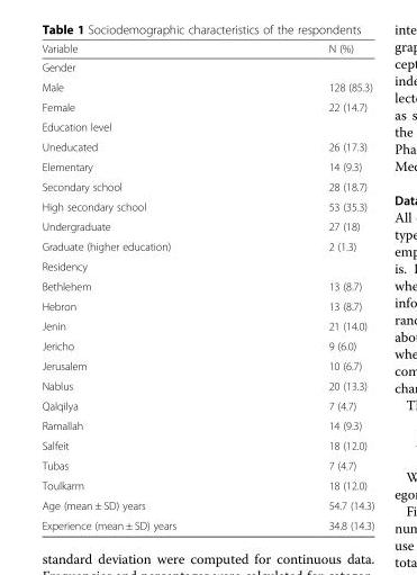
<table><thead><tr><td>Variable</td><td>N (%)</td></tr></thead><tbody><tr><td colspan="2">Gender</td></tr><tr><td>Male</td><td>128 (85.3)</td></tr><tr><td>Female</td><td>22 (14.7)</td></tr><tr><td colspan="2">Education level</td></tr><tr><td>Uneducated</td><td>26 (17.3)</td></tr><tr><td>Elementary</td><td>14 (9.3)</td></tr><tr><td>Secondary school</td><td>28 (18.7)</td></tr><tr><td>High secondary school</td><td>53 (35.3)</td></tr><tr><td>Undergraduate</td><td>27 (18)</td></tr><tr><td>Graduate (higher education)</td><td>2 (1.3)</td></tr><tr><td colspan="2">Residency</td></tr><tr><td>Bethlehem</td><td>13 (8.7)</td></tr><tr><td>Hebron</td><td>13 (8.7)</td></tr><tr><td>Jenin</td><td>21 (14.0)</td></tr><tr><td>Jericho</td><td>9 (6.0)</td></tr><tr><td>Jerusalem</td><td>10 (6.7)</td></tr><tr><td>Nablus</td><td>20 (13.3)</td></tr><tr><td>Qalqilya</td><td>7 (4.7)</td></tr><tr><td>Ramallah</td><td>14 (9.3)</td></tr><tr><td>Salfeit</td><td>18 (12.0)</td></tr><tr><td>Tubas</td><td>7 (4.7)</td></tr><tr><td>Toulkarm</td><td>18 (12.0)</td></tr><tr><td>Age (mean ± SD) years</td><td>54.7 (14.3)</td></tr><tr><td>Experience (mean ± SD) years</td><td>34.8 (14.3)</td></tr></tbody></table>